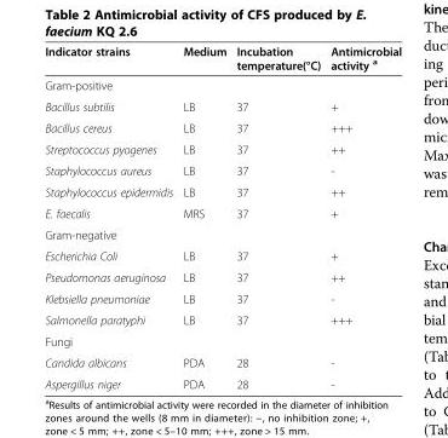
<table><thead><tr><td>Indicator strains</td><td>Medium</td><td>Incubation temperature(°C)</td><td>Antimicrobial activity <sup>a</sup></td></tr></thead><tbody><tr><td colspan="4">Gram-positive</td></tr><tr><td>Bacillus subtilis</td><td>LB</td><td>37</td><td>+</td></tr><tr><td>Bacillus cereus</td><td>LB</td><td>37</td><td>+++</td></tr><tr><td>Streptococcus pyogenes</td><td>LB</td><td>37</td><td>++</td></tr><tr><td>Staphylococcus aureus</td><td>LB</td><td>37</td><td>-</td></tr><tr><td>Staphylococcus epidermidis</td><td>LB</td><td>37</td><td>++</td></tr><tr><td>E. faecalis</td><td>MRS</td><td>37</td><td>+</td></tr><tr><td colspan="4">Gram-negative</td></tr><tr><td>Escherichia Coli</td><td>LB</td><td>37</td><td>+</td></tr><tr><td>Pseudomonas aeruginosa</td><td>LB</td><td>37</td><td>++</td></tr><tr><td>Klebsiella pneumoniae</td><td>LB</td><td>37</td><td>-</td></tr><tr><td>Salmonella paratyphi</td><td>LB</td><td>37</td><td>+++</td></tr><tr><td colspan="4">Fungi</td></tr><tr><td>Candida albicans</td><td>PDA</td><td>28</td><td>-</td></tr><tr><td>Aspergillus niger</td><td>PDA</td><td>28</td><td>-</td></tr></tbody></table>